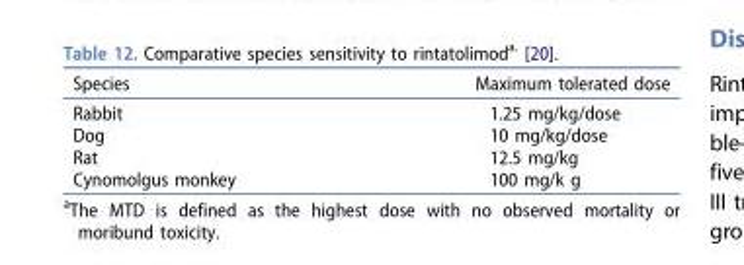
<table><thead><tr><td>Species</td><td>Maximum tolerated dose</td></tr></thead><tbody><tr><td>Rabbit</td><td>1.25 mg/kg/dose</td></tr><tr><td>Dog</td><td>10 mg/kg/dose</td></tr><tr><td>Rat</td><td>12.5 mg/kg</td></tr><tr><td>Cynomolgus monkey</td><td>100 mg/k g</td></tr></tbody></table>